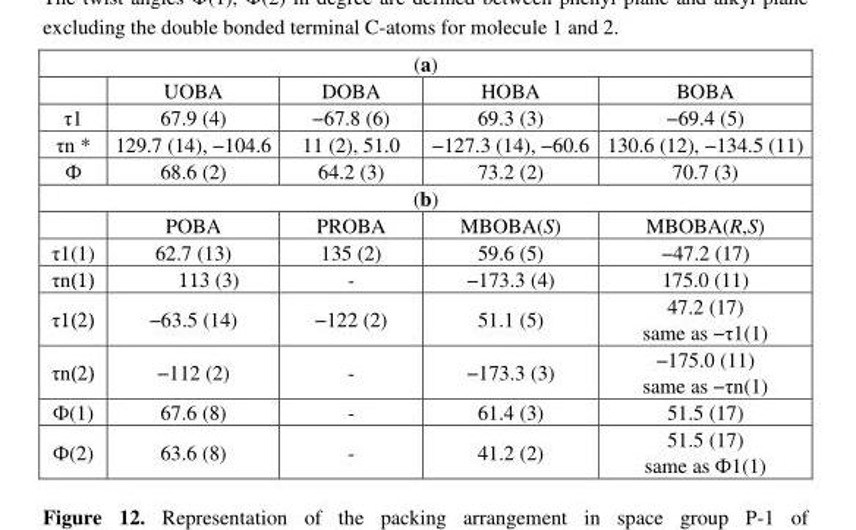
<table><thead><tr><td colspan="5">(a)</td></tr><tr><td></td><td>UOBA</td><td>DOBA</td><td>HOBA</td><td>BOBA</td></tr></thead><tbody><tr><td>τ1</td><td>67.9 (4)</td><td>−67.8 (6)</td><td>69.3 (3)</td><td>−69.4 (5)</td></tr><tr><td>τn *</td><td>129.7 (14), −104.6</td><td>11 (2), 51.0</td><td>−127.3 (14), −60.6</td><td>130.6 (12), −134.5 (11)</td></tr><tr><td>Ф</td><td>68.6 (2)</td><td>64.2 (3)</td><td>73.2 (2)</td><td>70.7 (3)</td></tr><tr><td colspan="5">(b)</td></tr><tr><td></td><td>POBA</td><td>PROBA</td><td>MBOBA(S)</td><td>MBOBA(R,S)</td></tr><tr><td>τ1(1)</td><td>62.7 (13)</td><td>135 (2)</td><td>59.6 (5)</td><td>−47.2 (17)</td></tr><tr><td>τn(1)</td><td>113 (3)</td><td>-</td><td>−173.3 (4)</td><td>175.0 (11)</td></tr><tr><td>τ1(2)</td><td>−63.5 (14)</td><td>−122 (2)</td><td>51.1 (5)</td><td>47.2 (17) same as −τ1(1)</td></tr><tr><td>τn(2)</td><td>−112 (2)</td><td>-</td><td>−173.3 (3)</td><td>−175.0 (11) same as −τn(1)</td></tr><tr><td>Ф(1)</td><td>67.6 (8)</td><td>-</td><td>61.4 (3)</td><td>51.5 (17)</td></tr><tr><td>Ф(2)</td><td>63.6 (8)</td><td>-</td><td>41.2 (2)</td><td>51.5 (17) same as Ф1(1)</td></tr></tbody></table>